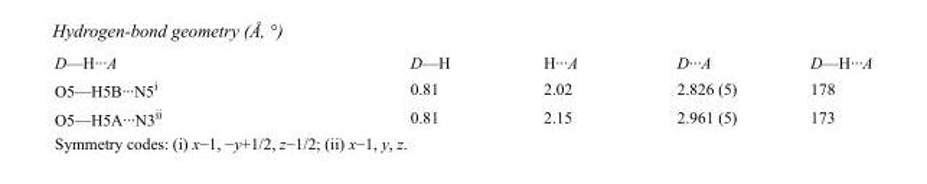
<table><tbody><tr><td>D—H···A</td><td>D—H</td><td>H···A</td><td>D···A</td><td>D—H···A</td></tr><tr><td>O5—H5B···N5<sup>i</sup></td><td>0.81</td><td>2.02</td><td>2.826 (5)</td><td>178</td></tr><tr><td>O5—H5A···N3<sup>ii</sup></td><td>0.81</td><td>2.15</td><td>2.961 (5)</td><td>173</td></tr></tbody></table>